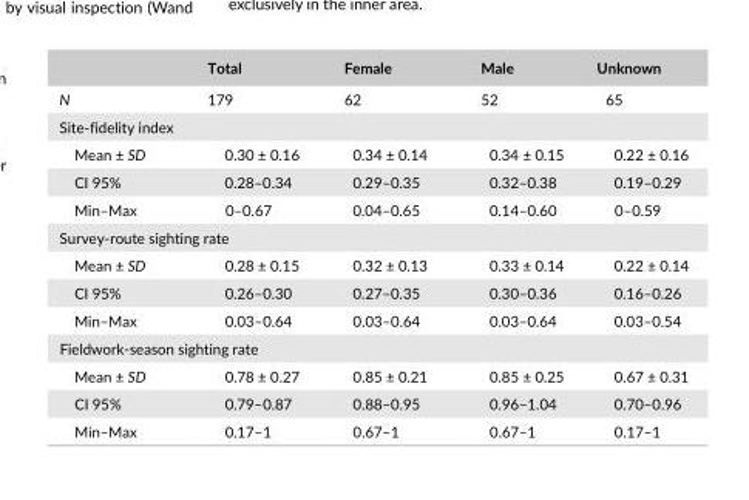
<table><thead><tr><td></td><td>Total</td><td>Female</td><td>Male</td><td>Unknown</td></tr></thead><tbody><tr><td>N</td><td>179</td><td>62</td><td>52</td><td>65</td></tr><tr><td colspan="5">Site- fidelity index</td></tr><tr><td>Mean ± SD</td><td>0.30 ± 0.16</td><td>0.34 ± 0.14</td><td>0.34 ± 0.15</td><td>0.22 ± 0.16</td></tr><tr><td>CI 95%</td><td>0.28–0.34</td><td>0.29–0.35</td><td>0.32–0.38</td><td>0.19–0.29</td></tr><tr><td>Min–Max</td><td>0–0.67</td><td>0.04–0.65</td><td>0.14–0.60</td><td>0–0.59</td></tr><tr><td colspan="5">Survey- route sighting rate</td></tr><tr><td>Mean ± SD</td><td>0.28 ± 0.15</td><td>0.32 ± 0.13</td><td>0.33 ± 0.14</td><td>0.22 ± 0.14</td></tr><tr><td>CI 95%</td><td>0.26–0.30</td><td>0.27–0.35</td><td>0.30–0.36</td><td>0.16–0.26</td></tr><tr><td>Min–Max</td><td>0.03–0.64</td><td>0.03–0.64</td><td>0.03–0.64</td><td>0.03–0.54</td></tr><tr><td colspan="5">Fieldwork- season sighting rate</td></tr><tr><td>Mean ± SD</td><td>0.78 ± 0.27</td><td>0.85 ± 0.21</td><td>0.85 ± 0.25</td><td>0.67 ± 0.31</td></tr><tr><td>CI 95%</td><td>0.79–0.87</td><td>0.88–0.95</td><td>0.96–1.04</td><td>0.70–0.96</td></tr><tr><td>Min–Max</td><td>0.17–1</td><td>0.67–1</td><td>0.67–1</td><td>0.17–1</td></tr></tbody></table>